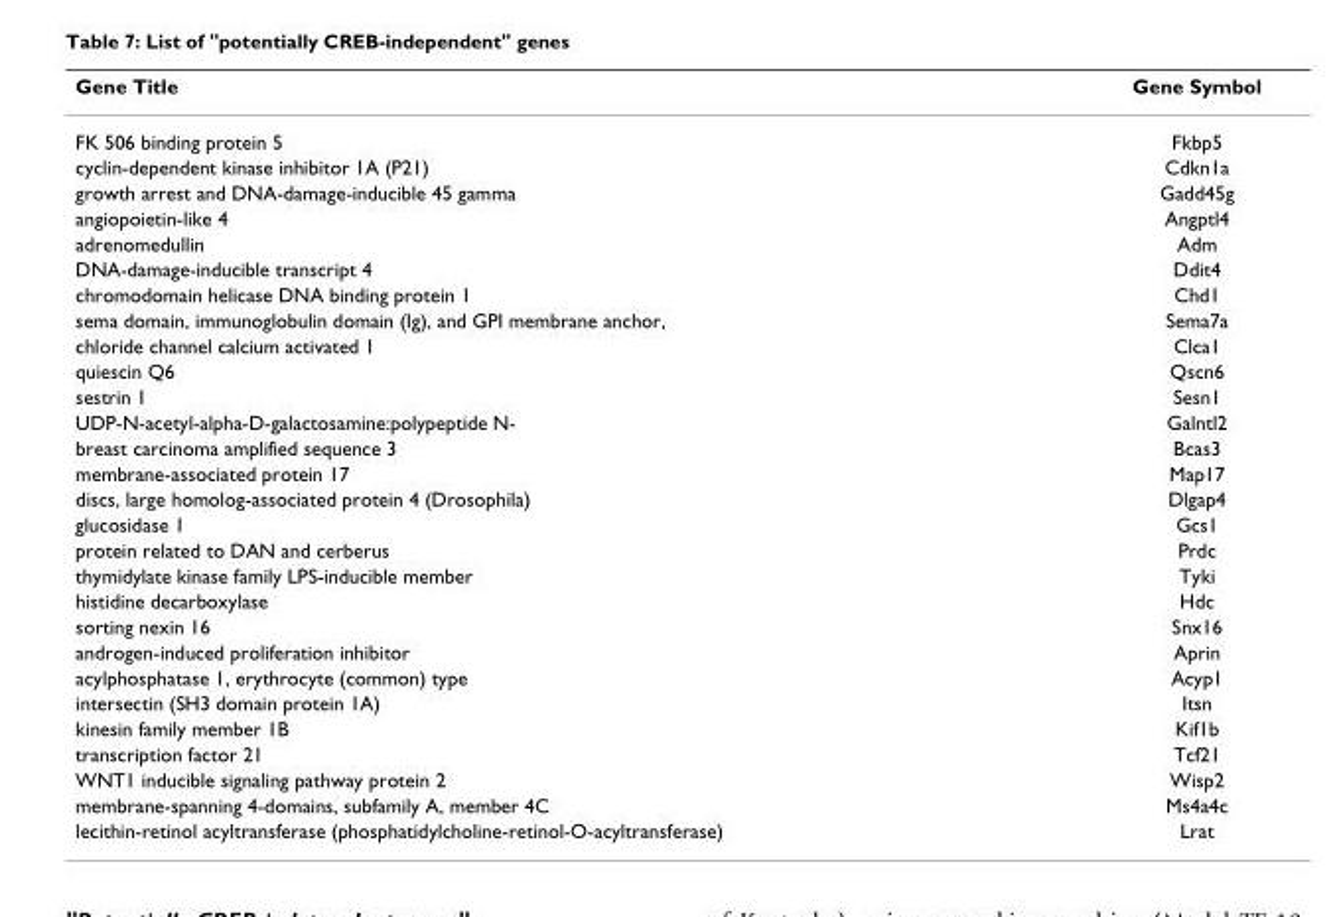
<table><thead><tr><td>Gene Title</td><td>Gene Symbol</td></tr></thead><tbody><tr><td>FK 506 binding protein 5</td><td>Fkbp5</td></tr><tr><td>cyclin-dependent kinase inhibitor 1A (P21)</td><td>Cdkn1a</td></tr><tr><td>growth arrest and DNA-damage-inducible 45 gamma</td><td>Gadd45g</td></tr><tr><td>angiopoietin-like 4</td><td>Angptl4</td></tr><tr><td>adrenomedullin</td><td>Adm</td></tr><tr><td>DNA-damage-inducible transcript 4</td><td>Ddit4</td></tr><tr><td>chromodomain helicase DNA binding protein 1</td><td>Chd1</td></tr><tr><td>sema domain, immunoglobulin domain (Ig), and GPI membrane anchor,</td><td>Sema7a</td></tr><tr><td>chloride channel calcium activated 1</td><td>Clca1</td></tr><tr><td>quiescin Q6</td><td>Qscn6</td></tr><tr><td>sestrin 1</td><td>Sesn1</td></tr><tr><td>UDP-N-acetyl-alpha-D-galactosamine:polypeptide N-</td><td>Galntl2</td></tr><tr><td>breast carcinoma amplified sequence 3</td><td>Bcas3</td></tr><tr><td>membrane-associated protein 17</td><td>Map17</td></tr><tr><td>discs, large homolog-associated protein 4 (Drosophila)</td><td>Dlgap4</td></tr><tr><td>glucosidase 1</td><td>Gcs1</td></tr><tr><td>protein related to DAN and cerberus</td><td>Prdc</td></tr><tr><td>thymidylate kinase family LPS-inducible member</td><td>Tyki</td></tr><tr><td>histidine decarboxylase</td><td>Hdc</td></tr><tr><td>sorting nexin 16</td><td>Snx16</td></tr><tr><td>androgen-induced proliferation inhibitor</td><td>Aprin</td></tr><tr><td>acylphosphatase 1, erythrocyte (common) type</td><td>Acyp1</td></tr><tr><td>intersectin (SH3 domain protein 1A)</td><td>Itsn</td></tr><tr><td>kinesin family member 1B</td><td>Kif1b</td></tr><tr><td>transcription factor 21</td><td>Tcf21</td></tr><tr><td>WNT1 inducible signaling pathway protein 2</td><td>Wisp2</td></tr><tr><td>membrane-spanning 4-domains, subfamily A, member 4C</td><td>Ms4a4c</td></tr><tr><td>lecithin-retinol acyltransferase (phosphatidylcholine-retinol-O-acyltransferase)</td><td>Lrat</td></tr></tbody></table>